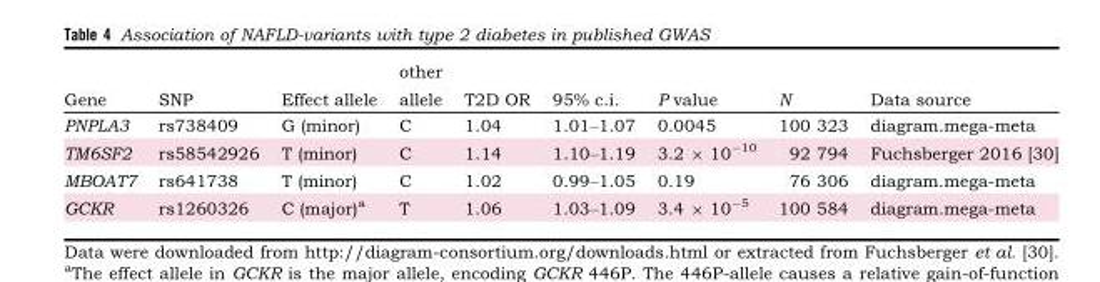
<table><thead><tr><td>Gene</td><td>SNP</td><td>Effect allele</td><td>other allele</td><td>T2D OR</td><td>95% c.i.</td><td>P value</td><td>N</td><td>Data source</td></tr></thead><tbody><tr><td>PNPLA3</td><td>rs738409</td><td>G (minor)</td><td>C</td><td>1.04</td><td>1.01–1.07</td><td>0.0045</td><td>100 323</td><td>diagram.mega-meta</td></tr><tr><td>TM6SF2</td><td>rs58542926</td><td>T (minor)</td><td>C</td><td>1.14</td><td>1.10–1.19</td><td>3.2 × 10<sup>−10</sup></td><td>92 794</td><td>Fuchsberger 2016</td></tr><tr><td>MBOAT7</td><td>rs641738</td><td>T (minor)</td><td>C</td><td>1.02</td><td>0.99–1.05</td><td>0.19</td><td>76 306</td><td>diagram.mega-meta</td></tr><tr><td>GCKR</td><td>rs1260326</td><td>C (major)<sup>a</sup></td><td>T</td><td>1.06</td><td>1.03–1.09</td><td>3.4 × 10<sup>−5</sup></td><td>100 584</td><td>diagram.mega-meta</td></tr></tbody></table>